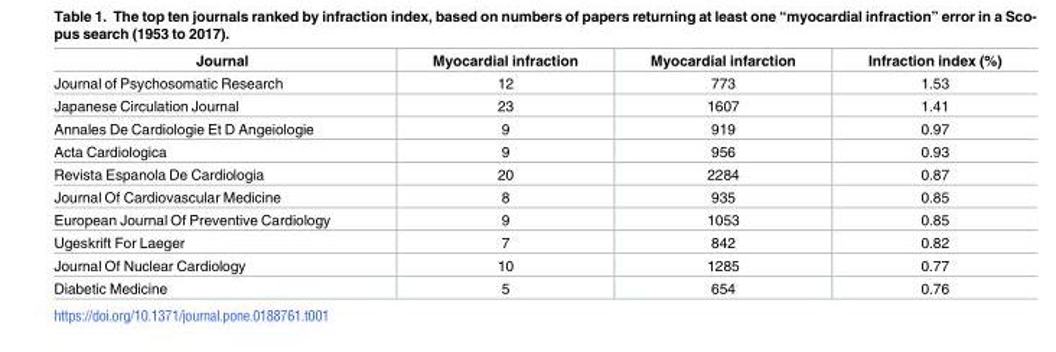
<table><thead><tr><td>Journal</td><td>Myocardial infraction</td><td>Myocardial infarction</td><td>Infraction index (%)</td></tr></thead><tbody><tr><td>Journal of Psychosomatic Research</td><td>12</td><td>773</td><td>1.53</td></tr><tr><td>Japanese Circulation Journal</td><td>23</td><td>1607</td><td>1.41</td></tr><tr><td>Annales De Cardiologie Et D Angeiologie</td><td>9</td><td>919</td><td>0.97</td></tr><tr><td>Acta Cardiologica</td><td>9</td><td>956</td><td>0.93</td></tr><tr><td>Revista Espanola De Cardiologia</td><td>20</td><td>2284</td><td>0.87</td></tr><tr><td>Journal Of Cardiovascular Medicine</td><td>8</td><td>935</td><td>0.85</td></tr><tr><td>European Journal Of Preventive Cardiology</td><td>9</td><td>1053</td><td>0.85</td></tr><tr><td>Ugeskrift For Laeger</td><td>7</td><td>842</td><td>0.82</td></tr><tr><td>Journal Of Nuclear Cardiology</td><td>10</td><td>1285</td><td>0.77</td></tr><tr><td>Diabetic Medicine</td><td>5</td><td>654</td><td>0.76</td></tr></tbody></table>